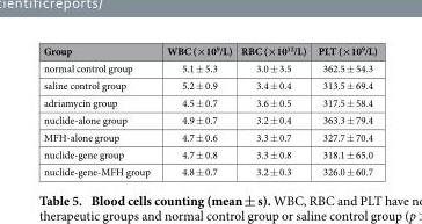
<table><thead><tr><td>Group</td><td>WBC (×10<sup>9</sup>/L)</td><td>RBC (×10<sup>12</sup>/L)</td><td>PLT (×10<sup>9</sup>/L)</td></tr></thead><tbody><tr><td>normal control group</td><td>5.1 ± 5.3</td><td>3.0 ± 3.5</td><td>362.5 ± 54.3</td></tr><tr><td>saline control group</td><td>5.2 ± 0.9</td><td>3.4 ± 0.4</td><td>313.5 ± 69.4</td></tr><tr><td>adriamycin group</td><td>4.5 ± 0.7</td><td>3.6 ± 0.5</td><td>317.5 ± 58.4</td></tr><tr><td>nuclide-alone group</td><td>4.9 ± 0.7</td><td>3.2 ± 0.4</td><td>363.3 ± 79.4</td></tr><tr><td>MFH-alone group</td><td>4.7 ± 0.6</td><td>3.3 ± 0.7</td><td>327.7 ± 70.4</td></tr><tr><td>nuclide-gene group</td><td>4.7 ± 0.8</td><td>3.3 ± 0.8</td><td>318.1 ± 65.0</td></tr><tr><td>nuclide-gene-MFH group</td><td>4.8 ± 0.7</td><td>3.2 ± 0.3</td><td>326.0 ± 60.7</td></tr></tbody></table>